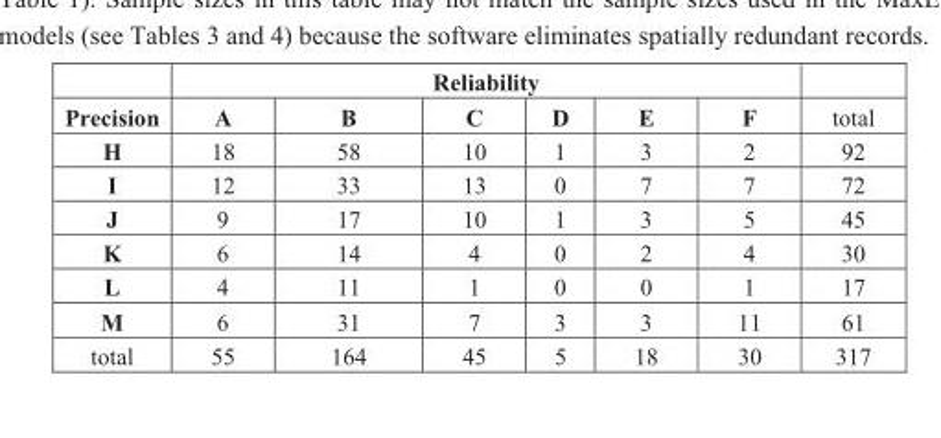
<table><thead><tr><td rowspan="2">Precision</td><td colspan="6">Reliability</td><td rowspan="2">total</td></tr><tr><td>A</td><td>B</td><td>C</td><td>D</td><td>E</td><td>F</td></tr></thead><tbody><tr><td>H</td><td>18</td><td>58</td><td>10</td><td>1</td><td>3</td><td>2</td><td>92</td></tr><tr><td>I</td><td>12</td><td>33</td><td>13</td><td>0</td><td>7</td><td>7</td><td>72</td></tr><tr><td>J</td><td>9</td><td>17</td><td>10</td><td>1</td><td>3</td><td>5</td><td>45</td></tr><tr><td>K</td><td>6</td><td>14</td><td>4</td><td>0</td><td>2</td><td>4</td><td>30</td></tr><tr><td>L</td><td>4</td><td>11</td><td>1</td><td>0</td><td>0</td><td>1</td><td>17</td></tr><tr><td>M</td><td>6</td><td>31</td><td>7</td><td>3</td><td>3</td><td>11</td><td>61</td></tr><tr><td>total</td><td>55</td><td>164</td><td>45</td><td>5</td><td>18</td><td>30</td><td>317</td></tr></tbody></table>